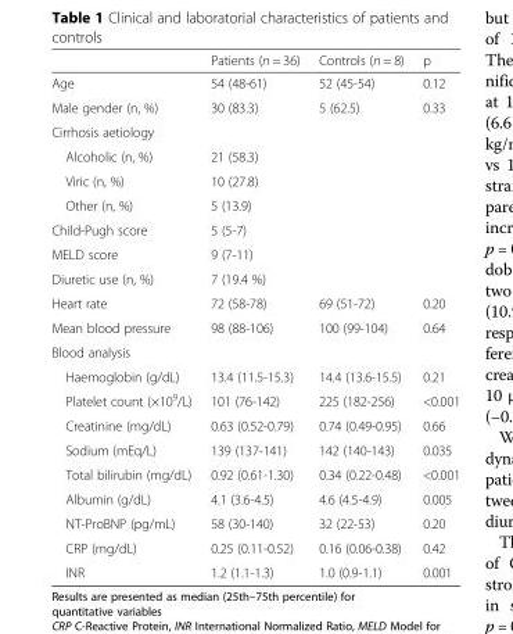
<table><thead><tr><td></td><td>Patients (n = 36)</td><td>Controls (n = 8)</td><td>p</td></tr></thead><tbody><tr><td>Age</td><td>54 (48-61)</td><td>52 (45-54)</td><td>0.12</td></tr><tr><td>Male gender (n, %)</td><td>30 (83.3)</td><td>5 (62.5)</td><td>0.33</td></tr><tr><td colspan="4">Cirrhosis aetiology</td></tr><tr><td>Alcoholic (n, %)</td><td>21 (58.3)</td><td></td><td></td></tr><tr><td>Viric (n, %)</td><td>10 (27.8)</td><td></td><td></td></tr><tr><td>Other (n, %)</td><td>5 (13.9)</td><td></td><td></td></tr><tr><td>Child-Pugh score</td><td>5 (5-7)</td><td></td><td></td></tr><tr><td>MELD score</td><td>9 (7-11)</td><td></td><td></td></tr><tr><td>Diuretic use (n, %)</td><td>7 (19.4 %)</td><td></td><td></td></tr><tr><td>Heart rate</td><td>72 (58-78)</td><td>69 (51-72)</td><td>0.20</td></tr><tr><td>Mean blood pressure</td><td>98 (88-106)</td><td>100 (99-104)</td><td>0.64</td></tr><tr><td colspan="4">Blood analysis</td></tr><tr><td>Haemoglobin (g/dL)</td><td>13.4 (11.5-15.3)</td><td>14.4 (13.6-15.5)</td><td>0.21</td></tr><tr><td>Platelet count (×10<sup>9</sup>/L)</td><td>101 (76-142)</td><td>225 (182-256)</td><td>&lt;0.001</td></tr><tr><td>Creatinine (mg/dL)</td><td>0.63 (0.52-0.79)</td><td>0.74 (0.49-0.95)</td><td>0.66</td></tr><tr><td>Sodium (mEq/L)</td><td>139 (137-141)</td><td>142 (140-143)</td><td>0.035</td></tr><tr><td>Total bilirubin (mg/dL)</td><td>0.92 (0.61-1.30)</td><td>0.34 (0.22-0.48)</td><td>&lt;0.001</td></tr><tr><td>Albumin (g/dL)</td><td>4.1 (3.6-4.5)</td><td>4.6 (4.5-4.9)</td><td>0.005</td></tr><tr><td>NT-ProBNP (pg/mL)</td><td>58 (30-140)</td><td>32 (22-53)</td><td>0.20</td></tr><tr><td>CRP (mg/dL)</td><td>0.25 (0.11-0.52)</td><td>0.16 (0.06-0.38)</td><td>0.42</td></tr><tr><td>INR</td><td>1.2 (1.1-1.3)</td><td>1.0 (0.9-1.1)</td><td>0.001</td></tr></tbody></table>